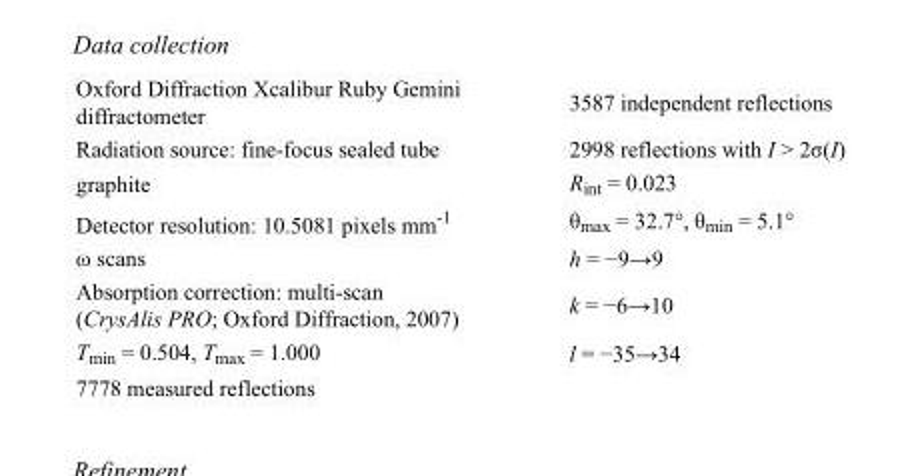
<table><tbody><tr><td>Oxford Diffraction Xcalibur Ruby Gemini diffractometer</td><td>3587 independent reflections</td></tr><tr><td>Radiation source: fine-focus sealed tube</td><td>2998 reflections with I &gt; 2σ(I)</td></tr><tr><td>graphite</td><td>R<sub>int</sub> = 0.023</td></tr><tr><td>Detector resolution: 10.5081 pixels mm<sup>-1</sup></td><td>θ<sub>max</sub> = 32.7°, θ<sub>min</sub> = 5.1°</td></tr><tr><td>ω scans</td><td>h = −9→9</td></tr><tr><td>Absorption correction: multi-scan (CrysAlis PRO; Oxford Diffraction, 2007)</td><td>k = −6→10</td></tr><tr><td>T<sub>min</sub> = 0.504, T<sub>max</sub> = 1.000</td><td>l = −35→34</td></tr><tr><td>7778 measured reflections</td><td></td></tr></tbody></table>